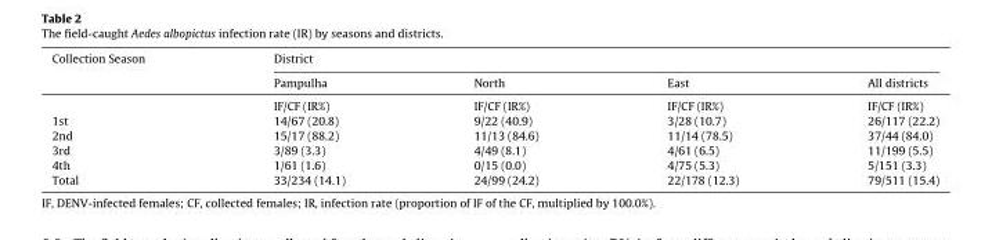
<table><thead><tr><td rowspan="2">Collection Season</td><td colspan="4">District</td></tr><tr><td>Pampulha</td><td>North</td><td>East</td><td>All districts</td></tr></thead><tbody><tr><td></td><td>IF/CF (IR%)</td><td>IF/CF (IR%)</td><td>IF/CF (IR%)</td><td>IF/CF (IR%)</td></tr><tr><td>1st</td><td>14/67 (20.8)</td><td>9/22 (40.9)</td><td>3/28 (10.7)</td><td>26/117 (22.2)</td></tr><tr><td>2nd</td><td>15/17 (88.2)</td><td>11/13 (84.6)</td><td>11/14 (78.5)</td><td>37/44 (84.0)</td></tr><tr><td>3rd</td><td>3/89 (3.3)</td><td>4/49 (8.1)</td><td>4/61 (6.5)</td><td>11/199 (5.5)</td></tr><tr><td>4th</td><td>1/61 (1.6)</td><td>0/15 (0.0)</td><td>4/75 (5.3)</td><td>5/151 (3.3)</td></tr><tr><td>Total</td><td>33/234 (14.1)</td><td>24/99 (24.2)</td><td>22/178 (12.3)</td><td>79/511 (15.4)</td></tr></tbody></table>